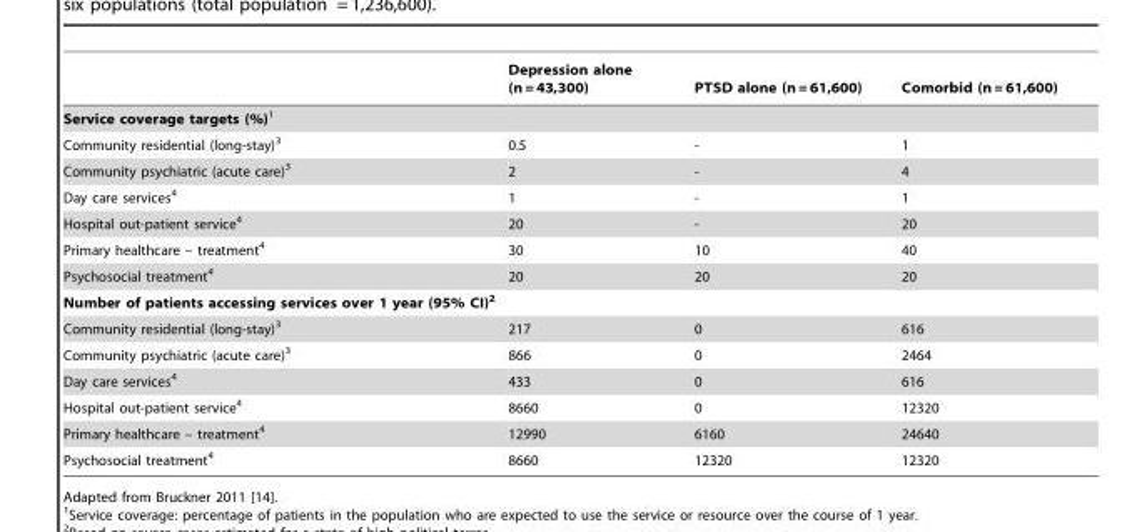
<table><thead><tr><td></td><td>Depression alone (n = 43,300)</td><td>PTSD alone (n = 61,600)</td><td>Comorbid (n = 61,600)</td></tr></thead><tbody><tr><td colspan="4">Service coverage targets (%)1</td></tr><tr><td>Community residential (long-stay)<sup>3</sup></td><td>0.5</td><td>-</td><td>1</td></tr><tr><td>Community psychiatric (acute care)<sup>3</sup></td><td>2</td><td>-</td><td>4</td></tr><tr><td>Day care services<sup>4</sup></td><td>1</td><td>-</td><td>1</td></tr><tr><td>Hospital out-patient service<sup>4</sup></td><td>20</td><td>-</td><td>20</td></tr><tr><td>Primary healthcare – treatment<sup>4</sup></td><td>30</td><td>10</td><td>40</td></tr><tr><td>Psychosocial treatment<sup>4</sup></td><td>20</td><td>20</td><td>20</td></tr><tr><td colspan="4">Number of patients accessing services over 1 year (95% CI)2</td></tr><tr><td>Community residential (long-stay)<sup>3</sup></td><td>217</td><td>0</td><td>616</td></tr><tr><td>Community psychiatric (acute care)<sup>3</sup></td><td>866</td><td>0</td><td>2464</td></tr><tr><td>Day care services<sup>4</sup></td><td>433</td><td>0</td><td>616</td></tr><tr><td>Hospital out-patient service<sup>4</sup></td><td>8660</td><td>0</td><td>12320</td></tr><tr><td>Primary healthcare – treatment<sup>4</sup></td><td>12990</td><td>6160</td><td>24640</td></tr><tr><td>Psychosocial treatment<sup>4</sup></td><td>8660</td><td>12320</td><td>12320</td></tr></tbody></table>